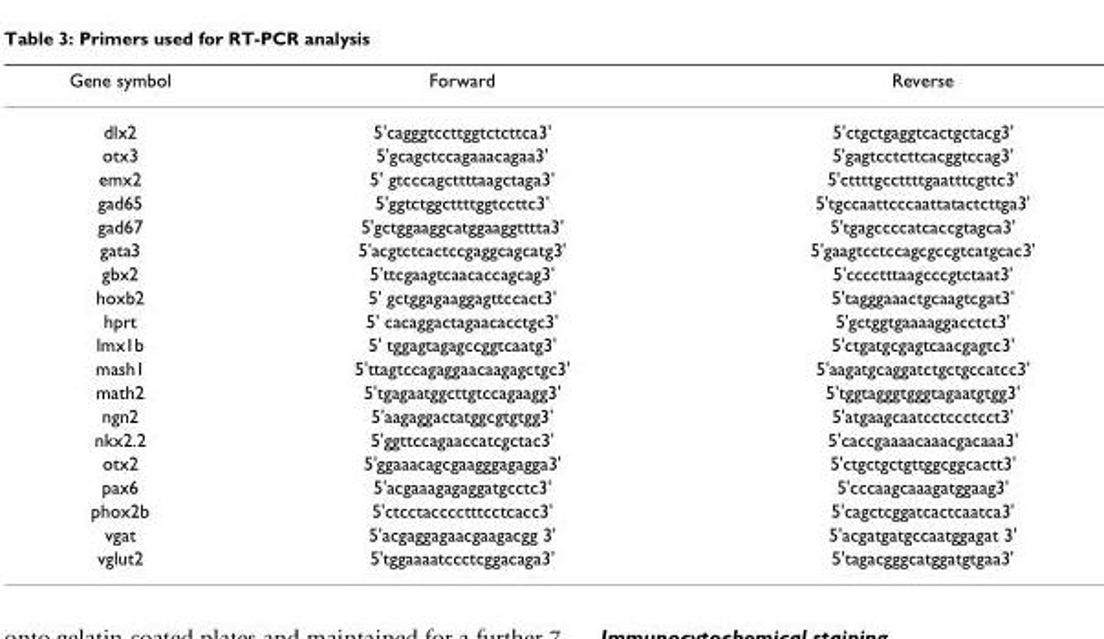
<table><thead><tr><td>Gene symbol</td><td>Forward</td><td>Reverse</td></tr></thead><tbody><tr><td>dlx2</td><td>5&#x27;cagggtccttggtctcttca3&#x27;</td><td>5&#x27;ctgctgaggtcactgctacg3&#x27;</td></tr><tr><td>otx3</td><td>5&#x27;gcagctccagaaacagaa3&#x27;</td><td>5&#x27;gagtcctcttcacggtccag3&#x27;</td></tr><tr><td>emx2</td><td>5&#x27; gtcccagcttttaagctaga3&#x27;</td><td>5&#x27;cttttgccttttgaatttcgttc3&#x27;</td></tr><tr><td>gad65</td><td>5&#x27;ggtctggcttttggtccttc3&#x27;</td><td>5&#x27;tgccaattcccaattatactcttga3&#x27;</td></tr><tr><td>gad67</td><td>5&#x27;gctggaaggcatggaaggtttta3&#x27;</td><td>5&#x27;tgagccccatcaccgtagca3&#x27;</td></tr><tr><td>gata3</td><td>5&#x27;acgtctcactccgaggcagcatg3&#x27;</td><td>5&#x27;gaagtcctccagcgccgtcatgcac3&#x27;</td></tr><tr><td>gbx2</td><td>5&#x27;ttcgaagtcaacaccagcag3&#x27;</td><td>5&#x27;cccctttaagcccgtctaat3&#x27;</td></tr><tr><td>hoxb2</td><td>5&#x27; gctggagaaggagttccact3&#x27;</td><td>5&#x27;tagggaaactgcaagtcgat3&#x27;</td></tr><tr><td>hprt</td><td>5&#x27; cacaggactagaacacctgc3&#x27;</td><td>5&#x27;gctggtgaaaaggacctct3&#x27;</td></tr><tr><td>lmx1b</td><td>5&#x27; tggagtagagccggtcaatg3&#x27;</td><td>5&#x27;ctgatgcgagtcaacgagtc3&#x27;</td></tr><tr><td>mash1</td><td>5&#x27;ttagtccagaggaacaagagctgc3&#x27;</td><td>5&#x27;aagatgcaggatctgctgccatcc3&#x27;</td></tr><tr><td>math2</td><td>5&#x27;tgagaatggcttgtccagaagg3&#x27;</td><td>5&#x27;tggtagggtgggtagaatgtgg3&#x27;</td></tr><tr><td>ngn2</td><td>5&#x27;aagaggactatggcgtgtgg3&#x27;</td><td>5&#x27;atgaagcaatcctccctcct3&#x27;</td></tr><tr><td>nkx2.2</td><td>5&#x27;ggttccagaaccatcgctac3&#x27;</td><td>5&#x27;caccgaaaacaaacgacaaa3&#x27;</td></tr><tr><td>otx2</td><td>5&#x27;ggaaacagcgaagggagagga3&#x27;</td><td>5&#x27;ctgctgctgttggcggcactt3&#x27;</td></tr><tr><td>pax6</td><td>5&#x27;acgaaagagaggatgcctc3&#x27;</td><td>5&#x27;cccaagcaaagatggaag3&#x27;</td></tr><tr><td>phox2b</td><td>5&#x27;ctcctacccctttcctcacc3&#x27;</td><td>5&#x27;cagctcggatcactcaatca3&#x27;</td></tr><tr><td>vgat</td><td>5&#x27;acgaggagaacgaagacgg 3&#x27;</td><td>5&#x27;acgatgatgccaatggagat 3&#x27;</td></tr><tr><td>vglut2</td><td>5&#x27;tggaaaatccctcggacaga3&#x27;</td><td>5&#x27;tagacgggcatggatgtgaa3&#x27;</td></tr></tbody></table>